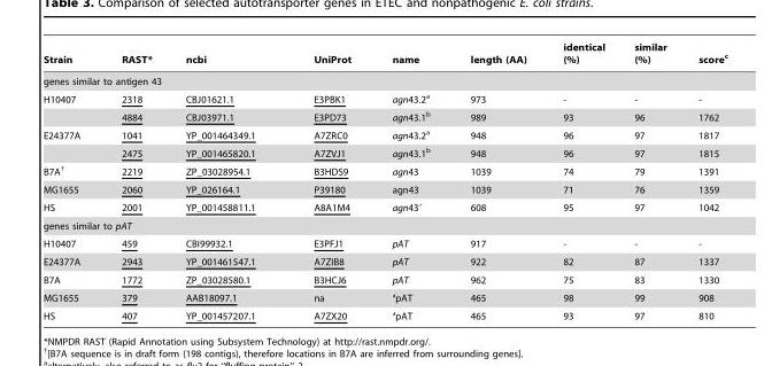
<table><thead><tr><td>Strain</td><td>RAST*</td><td>ncbi</td><td>UniProt</td><td>name</td><td>length (AA)</td><td>identical (%)</td><td>similar (%)</td><td>score<sup>c</sup></td></tr></thead><tbody><tr><td colspan="9">genes similar to antigen 43</td></tr><tr><td rowspan="2">H10407</td><td>2318</td><td>CBJ01621.1</td><td>E3PBK1</td><td>agn43.2<sup>a</sup></td><td>973</td><td>-</td><td>-</td><td>-</td></tr><tr><td>4884</td><td>CBJ03971.1</td><td>E3PD73</td><td>agn43.1<sup>b</sup></td><td>989</td><td>93</td><td>96</td><td>1762</td></tr><tr><td rowspan="2">E24377A</td><td>1041</td><td>YP_001464349.1</td><td>A7ZRC0</td><td>agn43.2<sup>a</sup></td><td>948</td><td>96</td><td>97</td><td>1817</td></tr><tr><td>2475</td><td>YP_001465820.1</td><td>A7ZVJ1</td><td>agn43.1<sup>b</sup></td><td>948</td><td>96</td><td>97</td><td>1815</td></tr><tr><td>B7A†</td><td>2219</td><td>ZP_03028954.1</td><td>B3HDS9</td><td>agn43</td><td>1039</td><td>74</td><td>79</td><td>1391</td></tr><tr><td>MG1655</td><td>2060</td><td>YP_026164.1</td><td>P39180</td><td>agn43</td><td>1039</td><td>71</td><td>76</td><td>1359</td></tr><tr><td>HS</td><td>2001</td><td>YP_001458811.1</td><td>A8A1M4</td><td>agn43′</td><td>608</td><td>95</td><td>97</td><td>1042</td></tr><tr><td colspan="9">genes similar to pAT</td></tr><tr><td>H10407</td><td>459</td><td>CBI99932.1</td><td>E3PFJ1</td><td>pAT</td><td>917</td><td>-</td><td>-</td><td>-</td></tr><tr><td>E24377A</td><td>2943</td><td>YP_001461547.1</td><td>A7ZIB8</td><td>pAT</td><td>922</td><td>82</td><td>87</td><td>1337</td></tr><tr><td>B7A</td><td>1772</td><td>ZP_03028580.1</td><td>B3HCJ6</td><td>pAT</td><td>962</td><td>75</td><td>83</td><td>1330</td></tr><tr><td>MG1655</td><td>379</td><td>AAB18097.1</td><td>na</td><td>‘pAT</td><td>465</td><td>98</td><td>99</td><td>908</td></tr><tr><td>HS</td><td>407</td><td>YP_001457207.1</td><td>A7ZX20</td><td>‘pAT</td><td>465</td><td>93</td><td>97</td><td>810</td></tr></tbody></table>